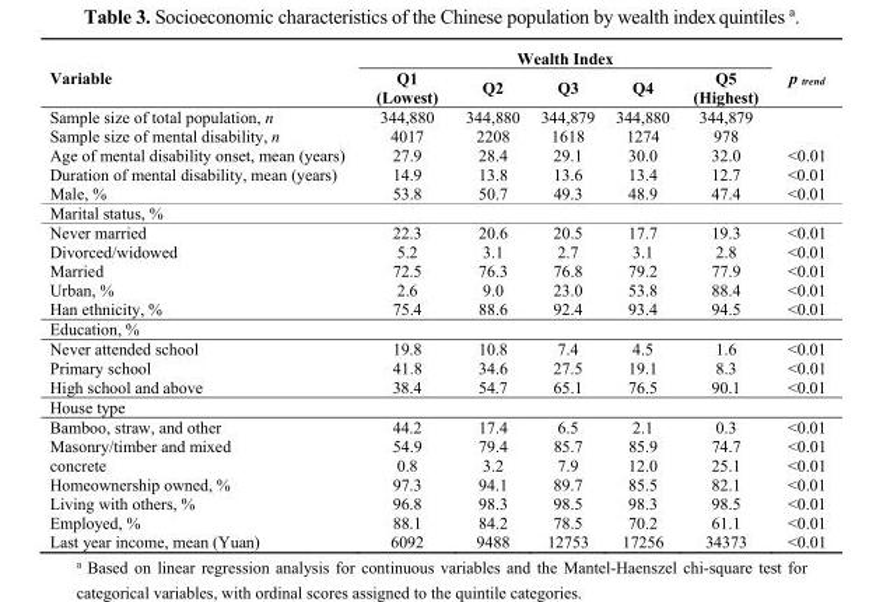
<table><thead><tr><td rowspan="2">Variable</td><td colspan="5">Wealth Index</td><td rowspan="2">p <sub>trend</sub></td></tr><tr><td>Q1 (Lowest)</td><td>Q2</td><td>Q3</td><td>Q4</td><td>Q5 (Highest)</td></tr></thead><tbody><tr><td>Sample size of total population, n</td><td>344,880</td><td>344,880</td><td>344,879</td><td>344,880</td><td>344,879</td><td></td></tr><tr><td>Sample size of mental disability, n</td><td>4017</td><td>2208</td><td>1618</td><td>1274</td><td>978</td><td></td></tr><tr><td>Age of mental disability onset, mean (years)</td><td>27.9</td><td>28.4</td><td>29.1</td><td>30.0</td><td>32.0</td><td>&lt;0.01</td></tr><tr><td>Duration of mental disability, mean (years)</td><td>14.9</td><td>13.8</td><td>13.6</td><td>13.4</td><td>12.7</td><td>&lt;0.01</td></tr><tr><td>Male, %</td><td>53.8</td><td>50.7</td><td>49.3</td><td>48.9</td><td>47.4</td><td>&lt;0.01</td></tr><tr><td colspan="7">Marital status, %</td></tr><tr><td>Never married</td><td>22.3</td><td>20.6</td><td>20.5</td><td>17.7</td><td>19.3</td><td>&lt;0.01</td></tr><tr><td>Divorced/widowed</td><td>5.2</td><td>3.1</td><td>2.7</td><td>3.1</td><td>2.8</td><td>&lt;0.01</td></tr><tr><td>Married</td><td>72.5</td><td>76.3</td><td>76.8</td><td>79.2</td><td>77.9</td><td>&lt;0.01</td></tr><tr><td>Urban, %</td><td>2.6</td><td>9.0</td><td>23.0</td><td>53.8</td><td>88.4</td><td>&lt;0.01</td></tr><tr><td>Han ethnicity, %</td><td>75.4</td><td>88.6</td><td>92.4</td><td>93.4</td><td>94.5</td><td>&lt;0.01</td></tr><tr><td colspan="7">Education, %</td></tr><tr><td>Never attended school</td><td>19.8</td><td>10.8</td><td>7.4</td><td>4.5</td><td>1.6</td><td>&lt;0.01</td></tr><tr><td>Primary school</td><td>41.8</td><td>34.6</td><td>27.5</td><td>19.1</td><td>8.3</td><td>&lt;0.01</td></tr><tr><td>High school and above</td><td>38.4</td><td>54.7</td><td>65.1</td><td>76.5</td><td>90.1</td><td>&lt;0.01</td></tr><tr><td colspan="7">House type</td></tr><tr><td>Bamboo, straw, and other</td><td>44.2</td><td>17.4</td><td>6.5</td><td>2.1</td><td>0.3</td><td>&lt;0.01</td></tr><tr><td>Masonry/timber and mixed</td><td>54.9</td><td>79.4</td><td>85.7</td><td>85.9</td><td>74.7</td><td>&lt;0.01</td></tr><tr><td>concrete</td><td>0.8</td><td>3.2</td><td>7.9</td><td>12.0</td><td>25.1</td><td>&lt;0.01</td></tr><tr><td>Homeownership owned, %</td><td>97.3</td><td>94.1</td><td>89.7</td><td>85.5</td><td>82.1</td><td>&lt;0.01</td></tr><tr><td>Living with others, %</td><td>96.8</td><td>98.3</td><td>98.5</td><td>98.3</td><td>98.5</td><td>&lt;0.01</td></tr><tr><td>Employed, %</td><td>88.1</td><td>84.2</td><td>78.5</td><td>70.2</td><td>61.1</td><td>&lt;0.01</td></tr><tr><td>Last year income, mean (Yuan)</td><td>6092</td><td>9488</td><td>12753</td><td>17256</td><td>34373</td><td>&lt;0.01</td></tr></tbody></table>